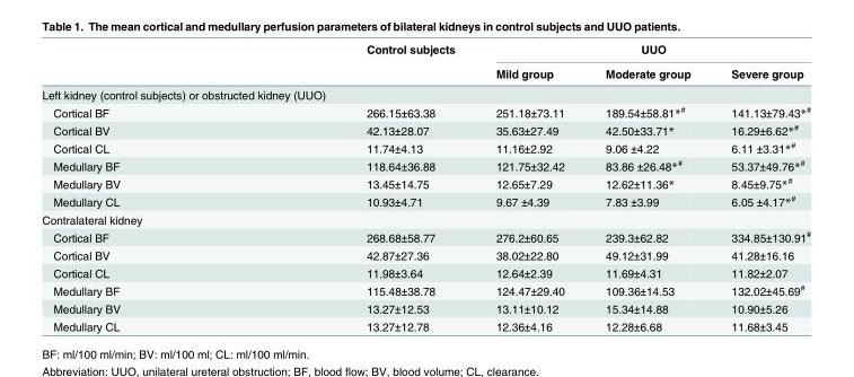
<table><thead><tr><td rowspan="2"></td><td rowspan="2">Control subjects</td><td colspan="3">UUO</td></tr><tr><td>Mild group</td><td>Moderate group</td><td>Severe group</td></tr></thead><tbody><tr><td colspan="5">Left kidney (control subjects) or obstructed kidney (UUO)</td></tr><tr><td>Cortical BF</td><td>266.15±63.38</td><td>251.18±73.11</td><td>189.54±58.81*<sup>#</sup></td><td>141.13±79.43*<sup>#</sup></td></tr><tr><td>Cortical BV</td><td>42.13±28.07</td><td>35.63±27.49</td><td>42.50±33.71*</td><td>16.29±6.62*<sup>#</sup></td></tr><tr><td>Cortical CL</td><td>11.74±4.13</td><td>11.16±2.92</td><td>9.06 ±4.22</td><td>6.11 ±3.31*<sup>#</sup></td></tr><tr><td>Medullary BF</td><td>118.64±36.88</td><td>121.75±32.42</td><td>83.86 ±26.48*<sup>#</sup></td><td>53.37±49.76*<sup>#</sup></td></tr><tr><td>Medullary BV</td><td>13.45±14.75</td><td>12.65±7.29</td><td>12.62±11.36*</td><td>8.45±9.75*<sup>#</sup></td></tr><tr><td>Medullary CL</td><td>10.93±4.71</td><td>9.67 ±4.39</td><td>7.83 ±3.99</td><td>6.05 ±4.17*<sup>#</sup></td></tr><tr><td colspan="5">Contralateral kidney</td></tr><tr><td>Cortical BF</td><td>268.68±58.77</td><td>276.2±60.65</td><td>239.3±62.82</td><td>334.85±130.91<sup>#</sup></td></tr><tr><td>Cortical BV</td><td>42.87±27.36</td><td>38.02±22.80</td><td>49.12±31.99</td><td>41.28±16.16</td></tr><tr><td>Cortical CL</td><td>11.98±3.64</td><td>12.64±2.39</td><td>11.69±4.31</td><td>11.82±2.07</td></tr><tr><td>Medullary BF</td><td>115.48±38.78</td><td>124.47±29.40</td><td>109.36±14.53</td><td>132.02±45.69<sup>#</sup></td></tr><tr><td>Medullary BV</td><td>13.27±12.53</td><td>13.11±10.12</td><td>15.34±14.88</td><td>10.90±5.26</td></tr><tr><td>Medullary CL</td><td>13.27±12.78</td><td>12.36±4.16</td><td>12.28±6.68</td><td>11.68±3.45</td></tr></tbody></table>